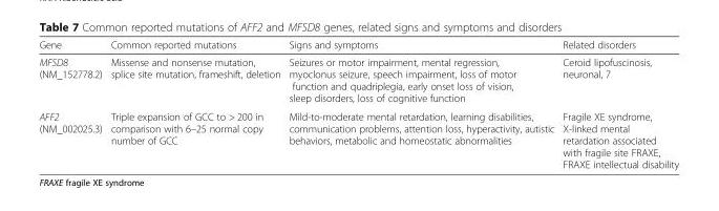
<table><thead><tr><td>Gene</td><td>Common reported mutations</td><td>Signs and symptoms</td><td>Related disorders</td></tr></thead><tbody><tr><td>MFSD8 (NM_152778.2)</td><td>Missense and nonsense mutation, splice site mutation, frameshift, deletion</td><td>Seizures or motor impairment, mental regression, myoclonus seizure, speech impairment, loss of motor function and quadriplegia, early onset loss of vision, sleep disorders, loss of cognitive function</td><td>Ceroid lipofuscinosis, neuronal, 7</td></tr><tr><td>AFF2 (NM_002025.3)</td><td>Triple expansion of GCC to &gt; 200 in comparison with 6–25 normal copy number of GCC</td><td>Mild-to-moderate mental retardation, learning disabilities, communication problems, attention loss, hyperactivity, autistic behaviors, metabolic and homeostatic abnormalities</td><td>Fragile XE syndrome, X-linked mental retardation associated with fragile site FRAXE, FRAXE intellectual disability</td></tr></tbody></table>